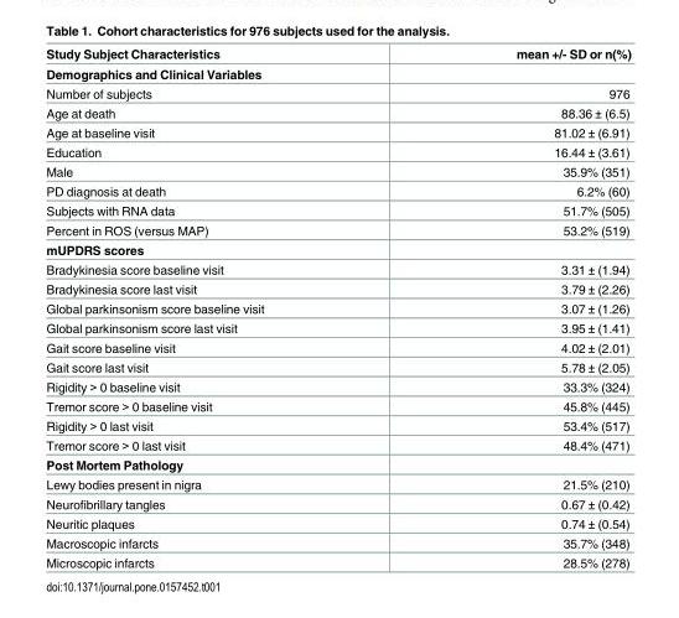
<table><thead><tr><td>Study Subject Characteristics</td><td>mean +/- SD or n(%)</td></tr></thead><tbody><tr><td colspan="2">Demographics and Clinical Variables</td></tr><tr><td>Number of subjects</td><td>976</td></tr><tr><td>Age at death</td><td>88.36 ± (6.5)</td></tr><tr><td>Age at baseline visit</td><td>81.02 ± (6.91)</td></tr><tr><td>Education</td><td>16.44 ± (3.61)</td></tr><tr><td>Male</td><td>35.9% (351)</td></tr><tr><td>PD diagnosis at death</td><td>6.2% (60)</td></tr><tr><td>Subjects with RNA data</td><td>51.7% (505)</td></tr><tr><td>Percent in ROS (versus MAP)</td><td>53.2% (519)</td></tr><tr><td colspan="2">mUPDRS scores</td></tr><tr><td>Bradykinesia score baseline visit</td><td>3.31 ± (1.94)</td></tr><tr><td>Bradykinesia score last visit</td><td>3.79 ± (2.26)</td></tr><tr><td>Global parkinsonism score baseline visit</td><td>3.07 ± (1.26)</td></tr><tr><td>Global parkinsonism score last visit</td><td>3.95 ± (1.41)</td></tr><tr><td>Gait score baseline visit</td><td>4.02 ± (2.01)</td></tr><tr><td>Gait score last visit</td><td>5.78 ± (2.05)</td></tr><tr><td>Rigidity &gt; 0 baseline visit</td><td>33.3% (324)</td></tr><tr><td>Tremor score &gt; 0 baseline visit</td><td>45.8% (445)</td></tr><tr><td>Rigidity &gt; 0 last visit</td><td>53.4% (517)</td></tr><tr><td>Tremor score &gt; 0 last visit</td><td>48.4% (471)</td></tr><tr><td colspan="2">Post Mortem Pathology</td></tr><tr><td>Lewy bodies present in nigra</td><td>21.5% (210)</td></tr><tr><td>Neurofibrillary tangles</td><td>0.67 ± (0.42)</td></tr><tr><td>Neuritic plaques</td><td>0.74 ± (0.54)</td></tr><tr><td>Macroscopic infarcts</td><td>35.7% (348)</td></tr><tr><td>Microscopic infarcts</td><td>28.5% (278)</td></tr></tbody></table>